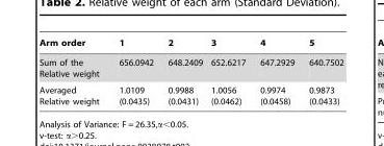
<table><thead><tr><td>Arm order</td><td>1</td><td>2</td><td>3</td><td>4</td><td>5</td></tr></thead><tbody><tr><td>Sum of the Relative weight</td><td>656.0942</td><td>648.2409</td><td>652.6217</td><td>647.2929</td><td>640.7502</td></tr><tr><td>Averaged Relative weight</td><td>1.0109 (0.0435)</td><td>0.9988 (0.0431)</td><td>1.0056 (0.0462)</td><td>0.9974 (0.0458)</td><td>0.9873 (0.0433)</td></tr></tbody></table>